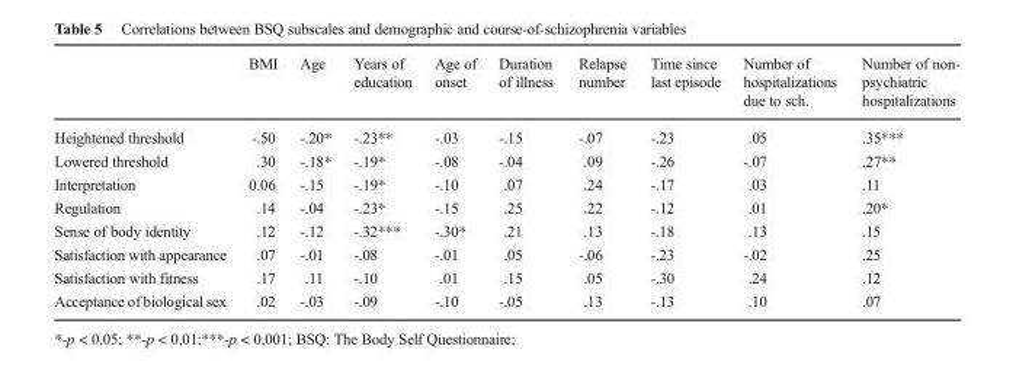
<table><thead><tr><td></td><td>BMI</td><td>Age</td><td>Years of education</td><td>Age of onset</td><td>Duration of illness</td><td>Relapse number</td><td>Time since last episode</td><td>Number of hospitalizations due to sch.</td><td>Number of non- psychiatric hospitalizations</td></tr></thead><tbody><tr><td>Heightened threshold</td><td>-.50</td><td>-.20*</td><td>-.23**</td><td>-.03</td><td>-.15</td><td>-.07</td><td>-.23</td><td>.05</td><td>.35***</td></tr><tr><td>Lowered threshold</td><td>.30</td><td>-.18*</td><td>-.19*</td><td>-.08</td><td>-.04</td><td>.09</td><td>-.26</td><td>-.07</td><td>.27**</td></tr><tr><td>Interpretation</td><td>0.06</td><td>-.15</td><td>-.19*</td><td>-.10</td><td>.07</td><td>.24</td><td>-.17</td><td>.03</td><td>.11</td></tr><tr><td>Regulation</td><td>.14</td><td>-.04</td><td>-.23*</td><td>-.15</td><td>.25</td><td>.22</td><td>-.12</td><td>.01</td><td>.20*</td></tr><tr><td>Sense of body identity</td><td>.12</td><td>-.12</td><td>-.32***</td><td>-.30*</td><td>.21</td><td>.13</td><td>-.18</td><td>.13</td><td>.15</td></tr><tr><td>Satisfaction with appearance</td><td>.07</td><td>-.01</td><td>-.08</td><td>-.01</td><td>.05</td><td>-.06</td><td>-.23</td><td>-.02</td><td>.25</td></tr><tr><td>Satisfaction with fitness</td><td>.17</td><td>.11</td><td>-.10</td><td>.01</td><td>.15</td><td>.05</td><td>-.30</td><td>.24</td><td>.12</td></tr><tr><td>Acceptance of biological sex</td><td>.02</td><td>-.03</td><td>-.09</td><td>-.10</td><td>-.05</td><td>.13</td><td>-.13</td><td>.10</td><td>.07</td></tr></tbody></table>